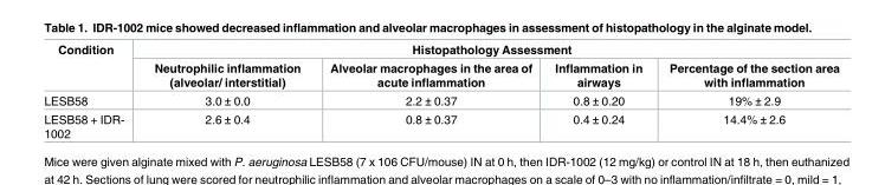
<table><thead><tr><td rowspan="2">Condition</td><td colspan="4">Histopathology Assessment</td></tr><tr><td>Neutrophilic inflammation (alveolar/ interstitial)</td><td>Alveolar macrophages in the area of acute inflammation</td><td>Inflammation in airways</td><td>Percentage of the section area with inflammation</td></tr></thead><tbody><tr><td>LESB58</td><td>3.0 ± 0.0</td><td>2.2 ± 0.37</td><td>0.8 ± 0.20</td><td>19% ± 2.9</td></tr><tr><td>LESB58 + IDR- 1002</td><td>2.6 ± 0.4</td><td>0.8 ± 0.37</td><td>0.4 ± 0.24</td><td>14.4% ± 2.6</td></tr></tbody></table>